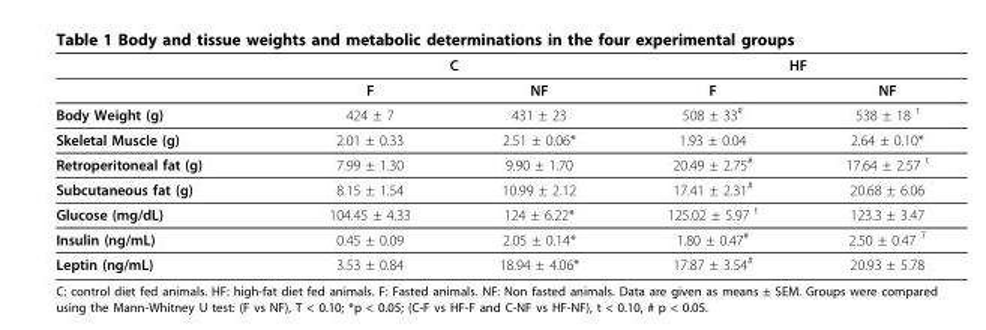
<table><thead><tr><td rowspan="2"></td><td colspan="2">C</td><td colspan="2">HF</td></tr><tr><td>F</td><td>NF</td><td>F</td><td>NF</td></tr></thead><tbody><tr><td>Body Weight (g)</td><td>424 ± 7</td><td>431 ± 23</td><td>508 ± 33<sup>#</sup></td><td>538 ± 18 <sup>t</sup></td></tr><tr><td>Skeletal Muscle (g)</td><td>2.01 ± 0.33</td><td>2.51 ± 0.06*</td><td>1.93 ± 0.04</td><td>2.64 ± 0.10*</td></tr><tr><td>Retroperitoneal fat (g)</td><td>7.99 ± 1.30</td><td>9.90 ± 1.70</td><td>20.49 ± 2.75<sup>#</sup></td><td>17.64 ± 2.57 <sup>t</sup></td></tr><tr><td>Subcutaneous fat (g)</td><td>8.15 ± 1.54</td><td>10.99 ± 2.12</td><td>17.41 ± 2.31<sup>#</sup></td><td>20.68 ± 6.06</td></tr><tr><td>Glucose (mg/dL)</td><td>104.45 ± 4.33</td><td>124 ± 6.22*</td><td>125.02 ± 5.97 <sup>t</sup></td><td>123.3 ± 3.47</td></tr><tr><td>Insulin (ng/mL)</td><td>0.45 ± 0.09</td><td>2.05 ± 0.14*</td><td>1.80 ± 0.47<sup>#</sup></td><td>2.50 ± 0.47 <sup>T</sup></td></tr><tr><td>Leptin (ng/mL)</td><td>3.53 ± 0.84</td><td>18.94 ± 4.06*</td><td>17.87 ± 3.54<sup>#</sup></td><td>20.93 ± 5.78</td></tr></tbody></table>